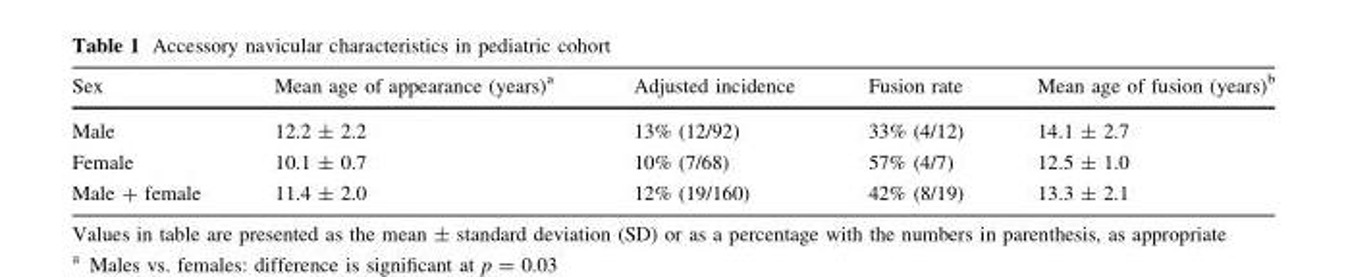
<table><thead><tr><td>Sex</td><td>Mean age of appearance (years)<sup>a</sup></td><td>Adjusted incidence</td><td>Fusion rate</td><td>Mean age of fusion (years)<sup>b</sup></td></tr></thead><tbody><tr><td>Male</td><td>12.2 ± 2.2</td><td>13% (12/92)</td><td>33% (4/12)</td><td>14.1 ± 2.7</td></tr><tr><td>Female</td><td>10.1 ± 0.7</td><td>10% (7/68)</td><td>57% (4/7)</td><td>12.5 ± 1.0</td></tr><tr><td>Male + female</td><td>11.4 ± 2.0</td><td>12% (19/160)</td><td>42% (8/19)</td><td>13.3 ± 2.1</td></tr></tbody></table>